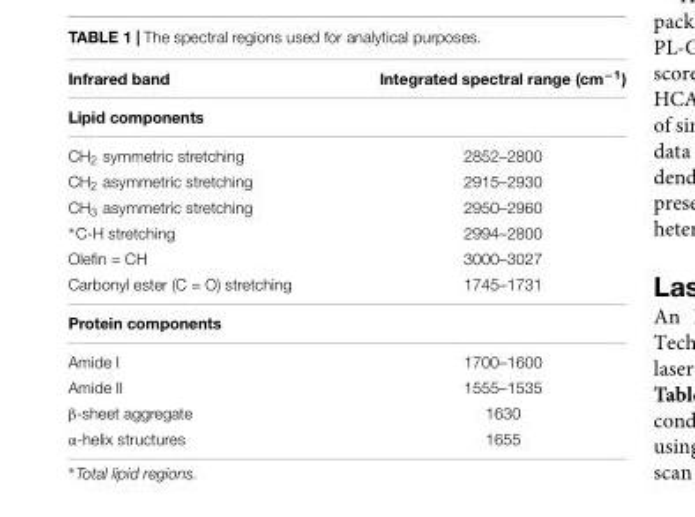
<table><thead><tr><td>Infrared band</td><td>Integrated spectral range (cm<sup>−1</sup>)</td></tr></thead><tbody><tr><td colspan="2">Lipid components</td></tr><tr><td>CH<sub>2</sub> symmetric stretching</td><td>2852–2800</td></tr><tr><td>CH<sub>2</sub> asymmetric stretching</td><td>2915–2930</td></tr><tr><td>CH<sub>3</sub> asymmetric stretching</td><td>2950–2960</td></tr><tr><td>∗C-H stretching</td><td>2994–2800</td></tr><tr><td>Olefin = CH</td><td>3000–3027</td></tr><tr><td>Carbonyl ester (C = O) stretching</td><td>1745–1731</td></tr><tr><td colspan="2">Protein components</td></tr><tr><td>Amide I</td><td>1700–1600</td></tr><tr><td>Amide II</td><td>1555–1535</td></tr><tr><td>β-sheet aggregate</td><td>1630</td></tr><tr><td>α-helix structures</td><td>1655</td></tr></tbody></table>